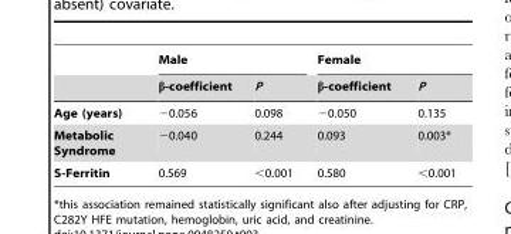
<table><thead><tr><td rowspan="2"></td><td colspan="2">Male</td><td colspan="2">Female</td></tr><tr><td>β-coefficient</td><td>P</td><td>β-coefficient</td><td>P</td></tr></thead><tbody><tr><td>Age (years)</td><td>−0.056</td><td>0.098</td><td>−0.050</td><td>0.135</td></tr><tr><td>Metabolic Syndrome</td><td>−0.040</td><td>0.244</td><td>0.093</td><td>0.003*</td></tr><tr><td>S-Ferritin</td><td>0.569</td><td>&lt;0.001</td><td>0.580</td><td>&lt;0.001</td></tr></tbody></table>